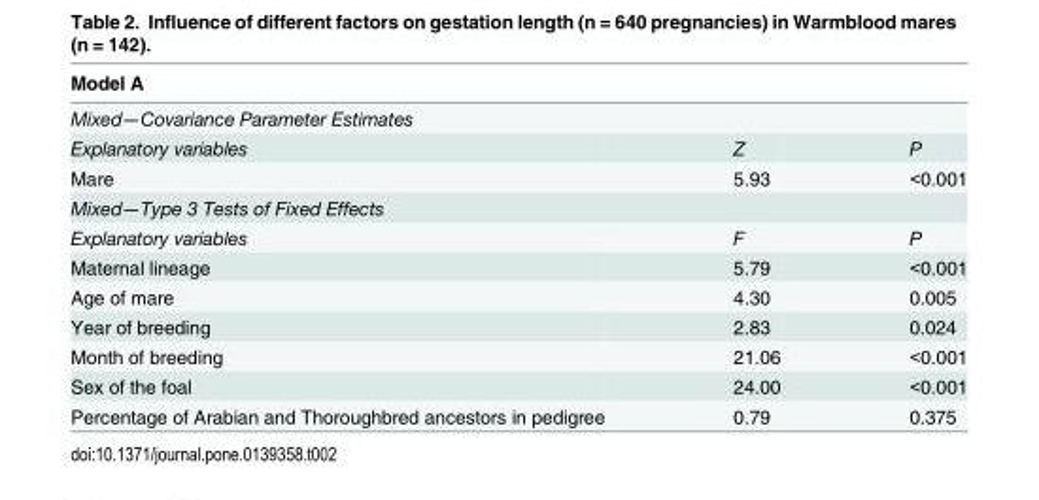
<table><thead><tr><td rowspan="2" colspan="3">Model A Mixed—Covariance Parameter Estimates</td></tr><tr></tr><tr><td>Explanatory variables</td><td>Z</td><td>P</td></tr></thead><tbody><tr><td>Mare</td><td>5.93</td><td>&lt;0.001</td></tr><tr><td colspan="3">Mixed—Type 3 Tests of Fixed Effects</td></tr><tr><td>Explanatory variables</td><td>F</td><td>P</td></tr><tr><td>Maternal lineage</td><td>5.79</td><td>&lt;0.001</td></tr><tr><td>Age of mare</td><td>4.30</td><td>0.005</td></tr><tr><td>Year of breeding</td><td>2.83</td><td>0.024</td></tr><tr><td>Month of breeding</td><td>21.06</td><td>&lt;0.001</td></tr><tr><td>Sex of the foal</td><td>24.00</td><td>&lt;0.001</td></tr><tr><td>Percentage of Arabian and Thoroughbred ancestors in pedigree</td><td>0.79</td><td>0.375</td></tr></tbody></table>